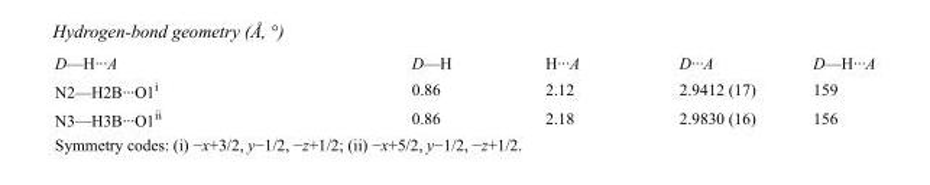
<table><tbody><tr><td>D—H···A</td><td>D—H</td><td>H···A</td><td>D···A</td><td>D—H···A</td></tr><tr><td>N2—H2B···O1<sup>i</sup></td><td>0.86</td><td>2.12</td><td>2.9412 (17)</td><td>159</td></tr><tr><td>N3—H3B···O1<sup>ii</sup></td><td>0.86</td><td>2.18</td><td>2.9830 (16)</td><td>156</td></tr></tbody></table>